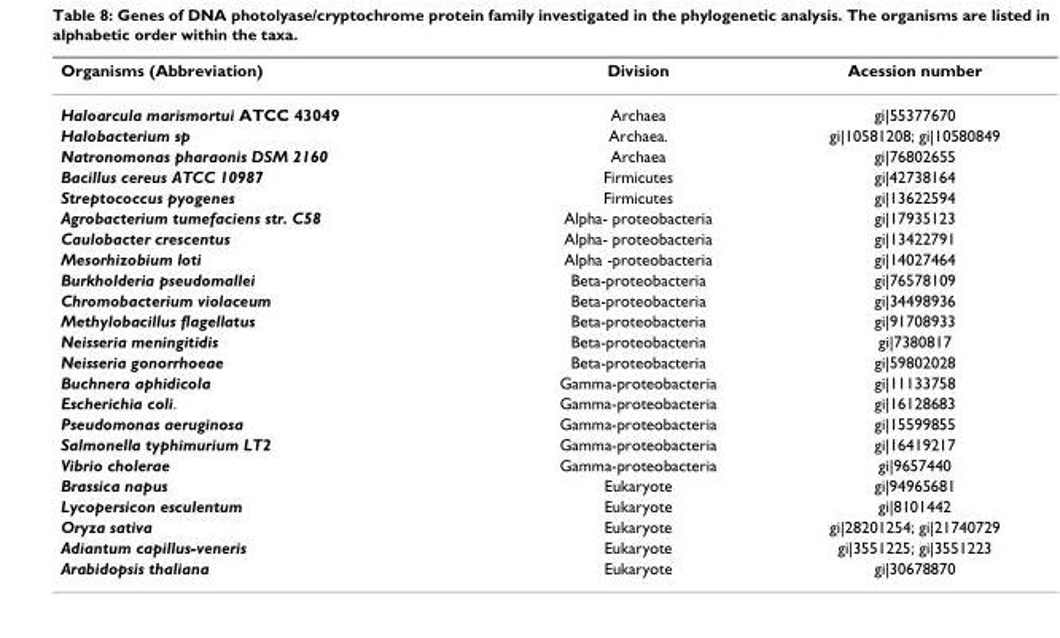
<table><thead><tr><td>Organisms (Abbreviation)</td><td>Division</td><td>Acession number</td></tr></thead><tbody><tr><td>Haloarcula marismortui ATCC 43049</td><td>Archaea</td><td>gi|55377670</td></tr><tr><td>Halobacterium sp</td><td>Archaea.</td><td>gi|10581208; gi|10580849</td></tr><tr><td>Natronomonas pharaonis DSM 2160</td><td>Archaea</td><td>gi|76802655</td></tr><tr><td>Bacillus cereus ATCC 10987</td><td>Firmicutes</td><td>gi|42738164</td></tr><tr><td>Streptococcus pyogenes</td><td>Firmicutes</td><td>gi|13622594</td></tr><tr><td>Agrobacterium tumefaciens str. C58</td><td>Alpha- proteobacteria</td><td>gi|17935123</td></tr><tr><td>Caulobacter crescentus</td><td>Alpha- proteobacteria</td><td>gi|13422791</td></tr><tr><td>Mesorhizobium loti</td><td>Alpha -proteobacteria</td><td>gi|14027464</td></tr><tr><td>Burkholderia pseudomallei</td><td>Beta-proteobacteria</td><td>gi|76578109</td></tr><tr><td>Chromobacterium violaceum</td><td>Beta-proteobacteria</td><td>gi|34498936</td></tr><tr><td>Methylobacillus flagellatus</td><td>Beta-proteobacteria</td><td>gi|91708933</td></tr><tr><td>Neisseria meningitidis</td><td>Beta-proteobacteria</td><td>gi|7380817</td></tr><tr><td>Neisseria gonorrhoeae</td><td>Beta-proteobacteria</td><td>gi|59802028</td></tr><tr><td>Buchnera aphidicola</td><td>Gamma-proteobacteria</td><td>gi|11133758</td></tr><tr><td>Escherichia coli.</td><td>Gamma-proteobacteria</td><td>gi|16128683</td></tr><tr><td>Pseudomonas aeruginosa</td><td>Gamma-proteobacteria</td><td>gi|15599855</td></tr><tr><td>Salmonella typhimurium LT2</td><td>Gamma-proteobacteria</td><td>gi|16419217</td></tr><tr><td>Vibrio cholerae</td><td>Gamma-proteobacteria</td><td>gi|9657440</td></tr><tr><td>Brassica napus</td><td>Eukaryote</td><td>gi|94965681</td></tr><tr><td>Lycopersicon esculentum</td><td>Eukaryote</td><td>gi|8101442</td></tr><tr><td>Oryza sativa</td><td>Eukaryote</td><td>gi|28201254; gi|21740729</td></tr><tr><td>Adiantum capillus-veneris</td><td>Eukaryote</td><td>gi|3551225; gi|3551223</td></tr><tr><td>Arabidopsis thaliana</td><td>Eukaryote</td><td>gi|30678870</td></tr></tbody></table>